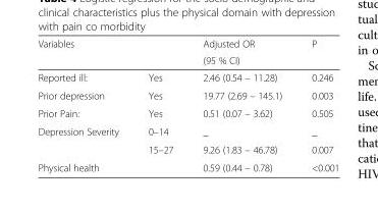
<table><thead><tr><td rowspan="2">Variables</td><td rowspan="2"></td><td rowspan="2">Adjusted OR (95 % CI)</td><td rowspan="2">P</td></tr><tr></tr></thead><tbody><tr><td>Reported ill:</td><td>Yes</td><td>2.46 (0.54 – 11.28)</td><td>0.246</td></tr><tr><td>Prior depression</td><td>Yes</td><td>19.77 (2.69 – 145.1)</td><td>0.003</td></tr><tr><td>Prior Pain:</td><td>Yes</td><td>0.51 (0.07 – 3.62)</td><td>0.505</td></tr><tr><td rowspan="2">Depression Severity</td><td>0–14</td><td>_</td><td>_</td></tr><tr><td>15–27</td><td>9.26 (1.83 – 46.78)</td><td>0.007</td></tr><tr><td>Physical health</td><td></td><td>0.59 (0.44 – 0.78)</td><td>&lt;0.001</td></tr></tbody></table>